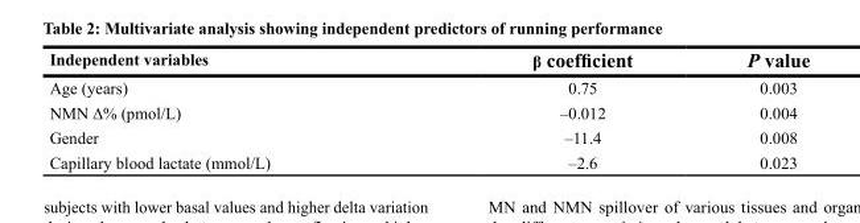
<table><thead><tr><td>Independent variables</td><td>β coefficient</td><td>P value</td></tr></thead><tbody><tr><td>Age (years)</td><td>0.75</td><td>0.003</td></tr><tr><td>NMN ∆% (pmol/L)</td><td>–0.012</td><td>0.004</td></tr><tr><td>Gender</td><td>–11.4</td><td>0.008</td></tr><tr><td>Capillary blood lactate (mmol/L)</td><td>–2.6</td><td>0.023</td></tr></tbody></table>